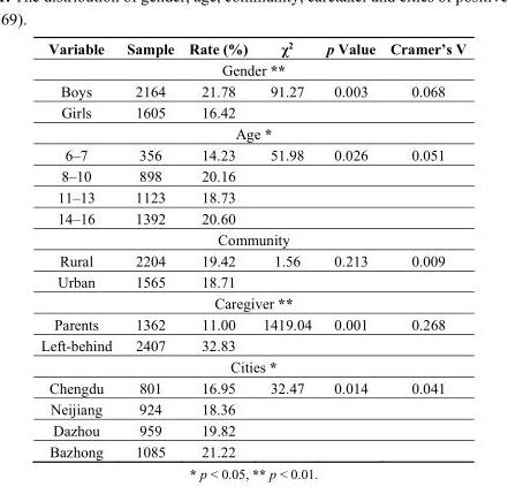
<table><thead><tr><td>Variable</td><td>Sample</td><td>Rate (%)</td><td>χ<sup>2</sup></td><td>p Value</td><td>Cramer’s V</td></tr></thead><tbody><tr><td colspan="6">Gender **</td></tr><tr><td>Boys</td><td>2164</td><td>21.78</td><td>91.27</td><td>0.003</td><td>0.068</td></tr><tr><td>Girls</td><td>1605</td><td>16.42</td><td></td><td></td><td></td></tr><tr><td colspan="6">Age *</td></tr><tr><td>6–7</td><td>356</td><td>14.23</td><td>51.98</td><td>0.026</td><td>0.051</td></tr><tr><td>8–10</td><td>898</td><td>20.16</td><td></td><td></td><td></td></tr><tr><td>11–13</td><td>1123</td><td>18.73</td><td></td><td></td><td></td></tr><tr><td>14–16</td><td>1392</td><td>20.60</td><td></td><td></td><td></td></tr><tr><td colspan="6">Community</td></tr><tr><td>Rural</td><td>2204</td><td>19.42</td><td>1.56</td><td>0.213</td><td>0.009</td></tr><tr><td>Urban</td><td>1565</td><td>18.71</td><td></td><td></td><td></td></tr><tr><td colspan="6">Caregiver **</td></tr><tr><td>Parents</td><td>1362</td><td>11.00</td><td>1419.04</td><td>0.001</td><td>0.268</td></tr><tr><td>Left-behind</td><td>2407</td><td>32.83</td><td></td><td></td><td></td></tr><tr><td colspan="6">Cities *</td></tr><tr><td>Chengdu</td><td>801</td><td>16.95</td><td>32.47</td><td>0.014</td><td>0.041</td></tr><tr><td>Neijiang</td><td>924</td><td>18.36</td><td></td><td></td><td></td></tr><tr><td>Dazhou</td><td>959</td><td>19.82</td><td></td><td></td><td></td></tr><tr><td>Bazhong</td><td>1085</td><td>21.22</td><td></td><td></td><td></td></tr></tbody></table>